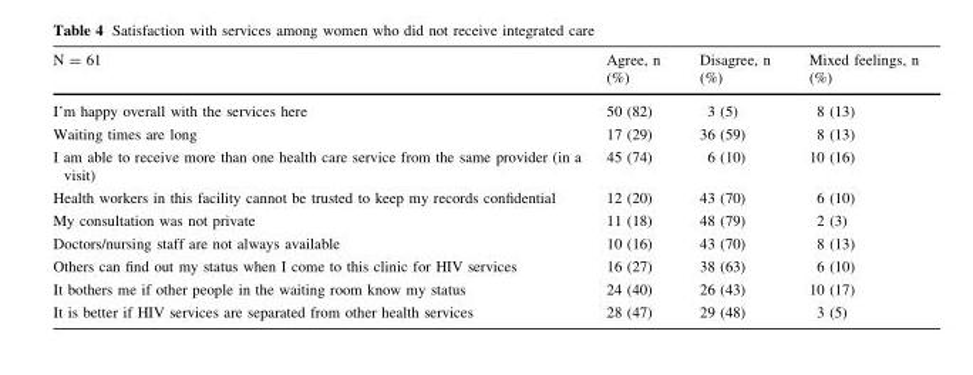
<table><thead><tr><td>N = 61</td><td>Agree, n (%)</td><td>Disagree, n (%)</td><td>Mixed feelings, n (%)</td></tr></thead><tbody><tr><td>I’m happy overall with the services here</td><td>50 (82)</td><td>3 (5)</td><td>8 (13)</td></tr><tr><td>Waiting times are long</td><td>17 (29)</td><td>36 (59)</td><td>8 (13)</td></tr><tr><td>I am able to receive more than one health care service from the same provider (in a visit)</td><td>45 (74)</td><td>6 (10)</td><td>10 (16)</td></tr><tr><td>Health workers in this facility cannot be trusted to keep my records confidential</td><td>12 (20)</td><td>43 (70)</td><td>6 (10)</td></tr><tr><td>My consultation was not private</td><td>11 (18)</td><td>48 (79)</td><td>2 (3)</td></tr><tr><td>Doctors/nursing staff are not always available</td><td>10 (16)</td><td>43 (70)</td><td>8 (13)</td></tr><tr><td>Others can find out my status when I come to this clinic for HIV services</td><td>16 (27)</td><td>38 (63)</td><td>6 (10)</td></tr><tr><td>It bothers me if other people in the waiting room know my status</td><td>24 (40)</td><td>26 (43)</td><td>10 (17)</td></tr><tr><td>It is better if HIV services are separated from other health services</td><td>28 (47)</td><td>29 (48)</td><td>3 (5)</td></tr></tbody></table>